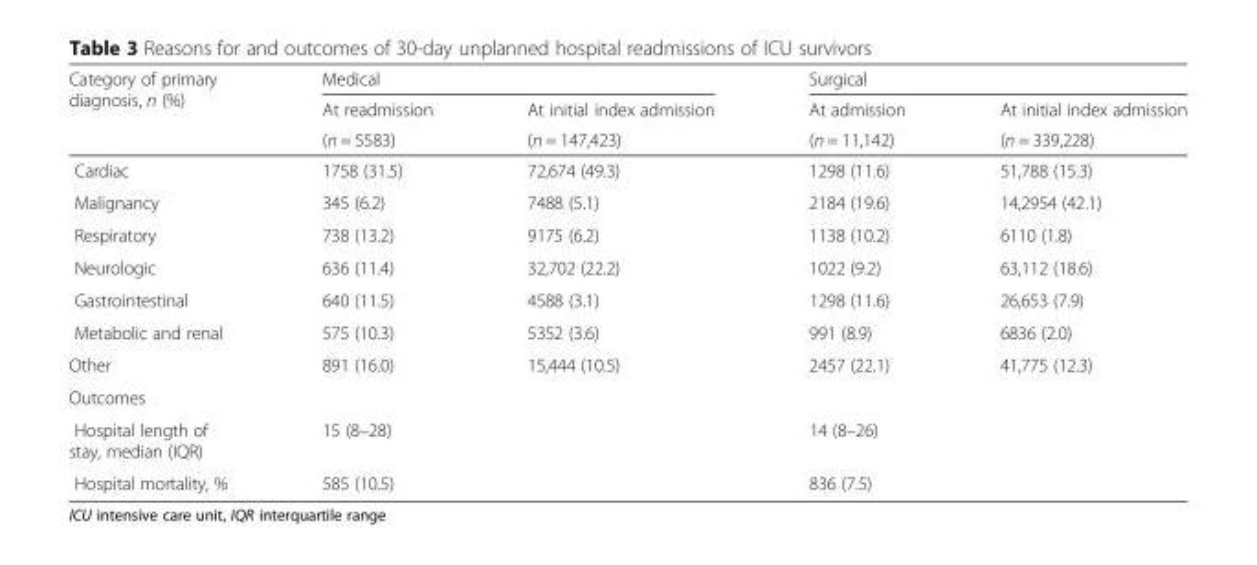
<table><thead><tr><td rowspan="3">Category of primary diagnosis, n (%)</td><td colspan="2">Medical</td><td colspan="2">Surgical</td></tr><tr><td rowspan="2">At readmission (n = 5583)</td><td rowspan="2">At initial index admission (n = 147,423)</td><td rowspan="2">At admission (n = 11,142)</td><td rowspan="2">At initial index admission (n = 339,228)</td></tr><tr></tr></thead><tbody><tr><td>Cardiac</td><td>1758 (31.5)</td><td>72,674 (49.3)</td><td>1298 (11.6)</td><td>51,788 (15.3)</td></tr><tr><td>Malignancy</td><td>345 (6.2)</td><td>7488 (5.1)</td><td>2184 (19.6)</td><td>14,2954 (42.1)</td></tr><tr><td>Respiratory</td><td>738 (13.2)</td><td>9175 (6.2)</td><td>1138 (10.2)</td><td>6110 (1.8)</td></tr><tr><td>Neurologic</td><td>636 (11.4)</td><td>32,702 (22.2)</td><td>1022 (9.2)</td><td>63,112 (18.6)</td></tr><tr><td>Gastrointestinal</td><td>640 (11.5)</td><td>4588 (3.1)</td><td>1298 (11.6)</td><td>26,653 (7.9)</td></tr><tr><td>Metabolic and renal</td><td>575 (10.3)</td><td>5352 (3.6)</td><td>991 (8.9)</td><td>6836 (2.0)</td></tr><tr><td>Other</td><td>891 (16.0)</td><td>15,444 (10.5)</td><td>2457 (22.1)</td><td>41,775 (12.3)</td></tr><tr><td colspan="5">Outcomes</td></tr><tr><td>Hospital length of stay, median (IQR)</td><td>15 (8–28)</td><td></td><td>14 (8–26)</td><td></td></tr><tr><td>Hospital mortality, %</td><td>585 (10.5)</td><td></td><td>836 (7.5)</td><td></td></tr></tbody></table>